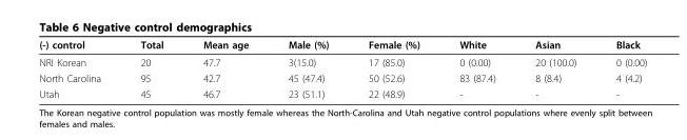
<table><thead><tr><td>(-) control</td><td>Total</td><td>Mean age</td><td>Male (%)</td><td>Female (%)</td><td>White</td><td>Asian</td><td>Black</td></tr></thead><tbody><tr><td>NRI Korean</td><td>20</td><td>47.7</td><td>3(15.0)</td><td>17 (85.0)</td><td>0 (0.00)</td><td>20 (100.0)</td><td>0 (0.00)</td></tr><tr><td>North Carolina</td><td>95</td><td>42.7</td><td>45 (47.4)</td><td>50 (52.6)</td><td>83 (87.4)</td><td>8 (8.4)</td><td>4 (4.2)</td></tr><tr><td>Utah</td><td>45</td><td>46.7</td><td>23 (51.1)</td><td>22 (48.9)</td><td>-</td><td>-</td><td>-</td></tr></tbody></table>